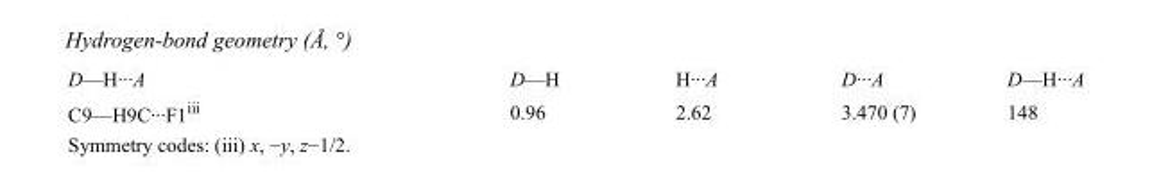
<table><tbody><tr><td>D—H···A</td><td>D—H</td><td>H···A</td><td>D···A</td><td>D—H···A</td></tr><tr><td>C9—H9C···F1<sup>iii</sup></td><td>0.96</td><td>2.62</td><td>3.470 (7)</td><td>148</td></tr></tbody></table>